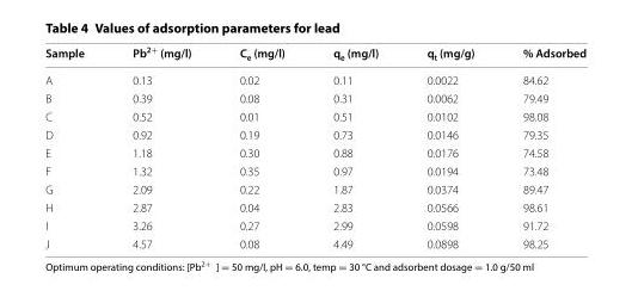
<table><thead><tr><td>Sample</td><td>Pb<sup>2+</sup> (mg/l)</td><td>C<sub>e</sub> (mg/l)</td><td>q<sub>e</sub> (mg/l)</td><td>q<sub>t</sub> (mg/g)</td><td>% Adsorbed</td></tr></thead><tbody><tr><td>A</td><td>0.13</td><td>0.02</td><td>0.11</td><td>0.0022</td><td>84.62</td></tr><tr><td>B</td><td>0.39</td><td>0.08</td><td>0.31</td><td>0.0062</td><td>79.49</td></tr><tr><td>C</td><td>0.52</td><td>0.01</td><td>0.51</td><td>0.0102</td><td>98.08</td></tr><tr><td>D</td><td>0.92</td><td>0.19</td><td>0.73</td><td>0.0146</td><td>79.35</td></tr><tr><td>E</td><td>1.18</td><td>0.30</td><td>0.88</td><td>0.0176</td><td>74.58</td></tr><tr><td>F</td><td>1.32</td><td>0.35</td><td>0.97</td><td>0.0194</td><td>73.48</td></tr><tr><td>G</td><td>2.09</td><td>0.22</td><td>1.87</td><td>0.0374</td><td>89.47</td></tr><tr><td>H</td><td>2.87</td><td>0.04</td><td>2.83</td><td>0.0566</td><td>98.61</td></tr><tr><td>I</td><td>3.26</td><td>0.27</td><td>2.99</td><td>0.0598</td><td>91.72</td></tr><tr><td>J</td><td>4.57</td><td>0.08</td><td>4.49</td><td>0.0898</td><td>98.25</td></tr></tbody></table>